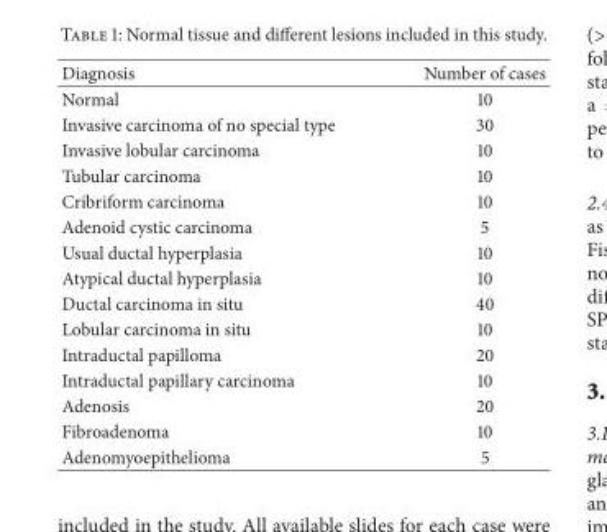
<table><thead><tr><td>Diagnosis</td><td>Number of cases</td></tr></thead><tbody><tr><td>Normal</td><td>10</td></tr><tr><td>Invasive carcinoma of no special type</td><td>30</td></tr><tr><td>Invasive lobular carcinoma</td><td>10</td></tr><tr><td>Tubular carcinoma</td><td>10</td></tr><tr><td>Cribriform carcinoma</td><td>10</td></tr><tr><td>Adenoid cystic carcinoma</td><td>5</td></tr><tr><td>Usual ductal hyperplasia</td><td>10</td></tr><tr><td>Atypical ductal hyperplasia</td><td>10</td></tr><tr><td>Ductal carcinoma in situ</td><td>40</td></tr><tr><td>Lobular carcinoma in situ</td><td>10</td></tr><tr><td>Intraductal papilloma</td><td>20</td></tr><tr><td>Intraductal papillary carcinoma</td><td>10</td></tr><tr><td>Adenosis</td><td>20</td></tr><tr><td>Fibroadenoma</td><td>10</td></tr><tr><td>Adenomyoepithelioma</td><td>5</td></tr></tbody></table>